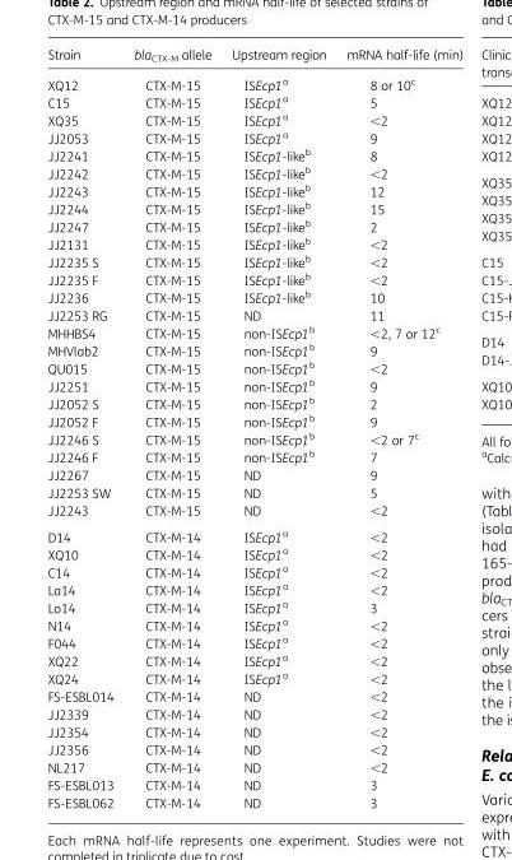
<table><thead><tr><td>Strain</td><td>bla<sub>CTX-M</sub> allele</td><td>Upstream region</td><td>mRNA half-life (min)</td></tr></thead><tbody><tr><td>XQ12</td><td>CTX-M-15</td><td>ISEcp1<sup>a</sup></td><td>8 or 10<sup>c</sup></td></tr><tr><td>C15</td><td>CTX-M-15</td><td>ISEcp1<sup>a</sup></td><td>5</td></tr><tr><td>XQ35</td><td>CTX-M-15</td><td>ISEcp1<sup>a</sup></td><td>&lt;2</td></tr><tr><td>JJ2053</td><td>CTX-M-15</td><td>ISEcp1<sup>a</sup></td><td>9</td></tr><tr><td>JJ2241</td><td>CTX-M-15</td><td>ISEcp1-like<sup>b</sup></td><td>8</td></tr><tr><td>JJ2242</td><td>CTX-M-15</td><td>ISEcp1-like<sup>b</sup></td><td>&lt;2</td></tr><tr><td>JJ2243</td><td>CTX-M-15</td><td>ISEcp1-like<sup>b</sup></td><td>12</td></tr><tr><td>JJ2244</td><td>CTX-M-15</td><td>ISEcp1-like<sup>b</sup></td><td>15</td></tr><tr><td>JJ2247</td><td>CTX-M-15</td><td>ISEcp1-like<sup>b</sup></td><td>2</td></tr><tr><td>JJ2131</td><td>CTX-M-15</td><td>ISEcp1-like<sup>b</sup></td><td>&lt;2</td></tr><tr><td>JJ2235 S</td><td>CTX-M-15</td><td>ISEcp1-like<sup>b</sup></td><td>&lt;2</td></tr><tr><td>JJ2235 F</td><td>CTX-M-15</td><td>ISEcp1-like<sup>b</sup></td><td>&lt;2</td></tr><tr><td>JJ2236</td><td>CTX-M-15</td><td>ISEcp1-like<sup>b</sup></td><td>10</td></tr><tr><td>JJ2253 RG</td><td>CTX-M-15</td><td>ND</td><td>11</td></tr><tr><td>MHHBS4</td><td>CTX-M-15</td><td>non-ISEcp1<sup>b</sup></td><td>&lt;2, 7 or 12<sup>c</sup></td></tr><tr><td>MHVlab2</td><td>CTX-M-15</td><td>non-ISEcp1<sup>b</sup></td><td>9</td></tr><tr><td>QU015</td><td>CTX-M-15</td><td>non-ISEcp1<sup>b</sup></td><td>&lt;2</td></tr><tr><td>JJ2251</td><td>CTX-M-15</td><td>non-ISEcp1<sup>b</sup></td><td>9</td></tr><tr><td>JJ2052 S</td><td>CTX-M-15</td><td>non-ISEcp1<sup>b</sup></td><td>2</td></tr><tr><td>JJ2052 F</td><td>CTX-M-15</td><td>non-ISEcp1<sup>b</sup></td><td>9</td></tr><tr><td>JJ2246 S</td><td>CTX-M-15</td><td>non-ISEcp1<sup>b</sup></td><td>&lt;2 or 7<sup>c</sup></td></tr><tr><td>JJ2246 F</td><td>CTX-M-15</td><td>non-ISEcp1<sup>b</sup></td><td>7</td></tr><tr><td>JJ2267</td><td>CTX-M-15</td><td>ND</td><td>9</td></tr><tr><td>JJ2253 SW</td><td>CTX-M-15</td><td>ND</td><td>5</td></tr><tr><td>JJ2243</td><td>CTX-M-15</td><td>ND</td><td>&lt;2</td></tr><tr><td>D14</td><td>CTX-M-14</td><td>ISEcp1<sup>a</sup></td><td>&lt;2</td></tr><tr><td>XQ10</td><td>CTX-M-14</td><td>ISEcp1<sup>a</sup></td><td>&lt;2</td></tr><tr><td>C14</td><td>CTX-M-14</td><td>ISEcp1<sup>a</sup></td><td>&lt;2</td></tr><tr><td>La14</td><td>CTX-M-14</td><td>ISEcp1<sup>a</sup></td><td>&lt;2</td></tr><tr><td>Lo14</td><td>CTX-M-14</td><td>ISEcp1<sup>a</sup></td><td>3</td></tr><tr><td>N14</td><td>CTX-M-14</td><td>ISEcp1<sup>a</sup></td><td>&lt;2</td></tr><tr><td>F044</td><td>CTX-M-14</td><td>ISEcp1<sup>a</sup></td><td>&lt;2</td></tr><tr><td>XQ22</td><td>CTX-M-14</td><td>ISEcp1<sup>a</sup></td><td>&lt;2</td></tr><tr><td>XQ24</td><td>CTX-M-14</td><td>ISEcp1<sup>a</sup></td><td>&lt;2</td></tr><tr><td>FS-ESBL014</td><td>CTX-M-14</td><td>ND</td><td>&lt;2</td></tr><tr><td>JJ2339</td><td>CTX-M-14</td><td>ND</td><td>&lt;2</td></tr><tr><td>JJ2354</td><td>CTX-M-14</td><td>ND</td><td>&lt;2</td></tr><tr><td>JJ2356</td><td>CTX-M-14</td><td>ND</td><td>&lt;2</td></tr><tr><td>NL217</td><td>CTX-M-14</td><td>ND</td><td>&lt;2</td></tr><tr><td>FS-ESBL013</td><td>CTX-M-14</td><td>ND</td><td>3</td></tr><tr><td>FS-ESBL062</td><td>CTX-M-14</td><td>ND</td><td>3</td></tr></tbody></table>